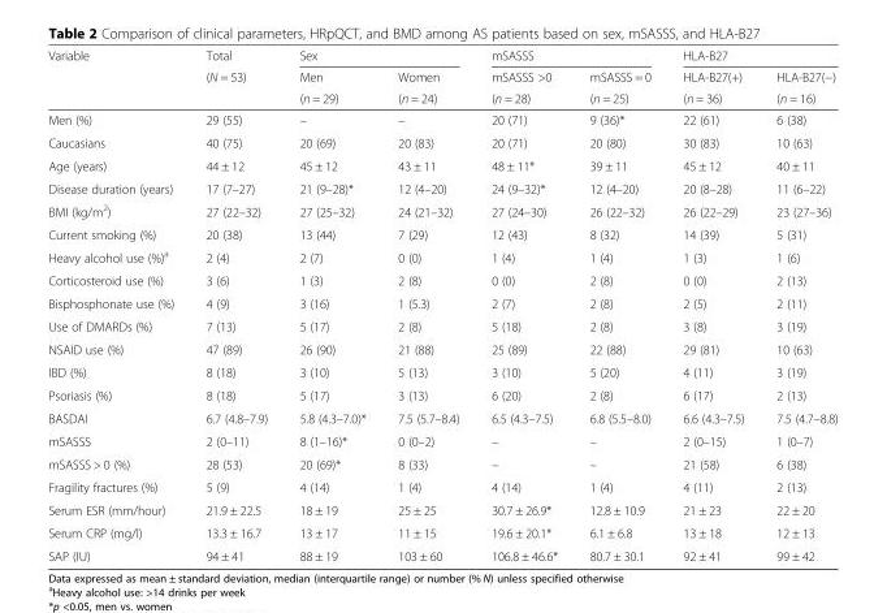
<table><thead><tr><td rowspan="3">Variable</td><td rowspan="3">Total (N = 53)</td><td colspan="2">Sex</td><td colspan="2">mSASSS</td><td colspan="2">HLA-B27</td></tr><tr><td rowspan="2">Men (n = 29)</td><td rowspan="2">Women (n = 24)</td><td rowspan="2">mSASSS &gt;0 (n = 28)</td><td rowspan="2">mSASSS = 0 (n = 25)</td><td rowspan="2">HLA-B27(+) (n = 36)</td><td rowspan="2">HLA-B27(−) (n = 16)</td></tr><tr></tr></thead><tbody><tr><td>Men (%)</td><td>29 (55)</td><td>–</td><td>–</td><td>20 (71)</td><td>9 (36)*</td><td>22 (61)</td><td>6 (38)</td></tr><tr><td>Caucasians</td><td>40 (75)</td><td>20 (69)</td><td>20 (83)</td><td>20 (71)</td><td>20 (80)</td><td>30 (83)</td><td>10 (63)</td></tr><tr><td>Age (years)</td><td>44 ± 12</td><td>45 ± 12</td><td>43 ± 11</td><td>48 ± 11*</td><td>39 ± 11</td><td>45 ± 12</td><td>40 ± 11</td></tr><tr><td>Disease duration (years)</td><td>17 (7–27)</td><td>21 (9–28)*</td><td>12 (4–20)</td><td>24 (9–32)*</td><td>12 (4–20)</td><td>20 (8–28)</td><td>11 (6–22)</td></tr><tr><td>BMI (kg/m<sup>2</sup>)</td><td>27 (22–32)</td><td>27 (25–32)</td><td>24 (21–32)</td><td>27 (24–30)</td><td>26 (22–32)</td><td>26 (22–29)</td><td>23 (27–36)</td></tr><tr><td>Current smoking (%)</td><td>20 (38)</td><td>13 (44)</td><td>7 (29)</td><td>12 (43)</td><td>8 (32)</td><td>14 (39)</td><td>5 (31)</td></tr><tr><td>Heavy alcohol use (%)<sup>a</sup></td><td>2 (4)</td><td>2 (7)</td><td>0 (0)</td><td>1 (4)</td><td>1 (4)</td><td>1 (3)</td><td>1 (6)</td></tr><tr><td>Corticosteroid use (%)</td><td>3 (6)</td><td>1 (3)</td><td>2 (8)</td><td>0 (0)</td><td>2 (8)</td><td>0 (0)</td><td>2 (13)</td></tr><tr><td>Bisphosphonate use (%)</td><td>4 (9)</td><td>3 (16)</td><td>1 (5.3)</td><td>2 (7)</td><td>2 (8)</td><td>2 (5)</td><td>2 (11)</td></tr><tr><td>Use of DMARDs (%)</td><td>7 (13)</td><td>5 (17)</td><td>2 (8)</td><td>5 (18)</td><td>2 (8)</td><td>3 (8)</td><td>3 (19)</td></tr><tr><td>NSAID use (%)</td><td>47 (89)</td><td>26 (90)</td><td>21 (88)</td><td>25 (89)</td><td>22 (88)</td><td>29 (81)</td><td>10 (63)</td></tr><tr><td>IBD (%)</td><td>8 (18)</td><td>3 (10)</td><td>5 (13)</td><td>3 (10)</td><td>5 (20)</td><td>4 (11)</td><td>3 (19)</td></tr><tr><td>Psoriasis (%)</td><td>8 (18)</td><td>5 (17)</td><td>3 (13)</td><td>6 (20)</td><td>2 (8)</td><td>6 (17)</td><td>2 (13)</td></tr><tr><td>BASDAI</td><td>6.7 (4.8–7.9)</td><td>5.8 (4.3–7.0)*</td><td>7.5 (5.7–8.4)</td><td>6.5 (4.3–7.5)</td><td>6.8 (5.5–8.0)</td><td>6.6 (4.3–7.5)</td><td>7.5 (4.7–8.8)</td></tr><tr><td>mSASSS</td><td>2 (0–11)</td><td>8 (1–16)*</td><td>0 (0–2)</td><td>–</td><td>–</td><td>2 (0–15)</td><td>1 (0–7)</td></tr><tr><td>mSASSS &gt; 0 (%)</td><td>28 (53)</td><td>20 (69)*</td><td>8 (33)</td><td>–</td><td>–</td><td>21 (58)</td><td>6 (38)</td></tr><tr><td>Fragility fractures (%)</td><td>5 (9)</td><td>4 (14)</td><td>1 (4)</td><td>4 (14)</td><td>1 (4)</td><td>4 (11)</td><td>2 (13)</td></tr><tr><td>Serum ESR (mm/hour)</td><td>21.9 ± 22.5</td><td>18 ± 19</td><td>25 ± 25</td><td>30.7 ± 26.9*</td><td>12.8 ± 10.9</td><td>21 ± 23</td><td>22 ± 20</td></tr><tr><td>Serum CRP (mg/l)</td><td>13.3 ± 16.7</td><td>13 ± 17</td><td>11 ± 15</td><td>19.6 ± 20.1*</td><td>6.1 ± 6.8</td><td>13 ± 18</td><td>12 ± 13</td></tr><tr><td>SAP (IU)</td><td>94 ± 41</td><td>88 ± 19</td><td>103 ± 60</td><td>106.8 ± 46.6*</td><td>80.7 ± 30.1</td><td>92 ± 41</td><td>99 ± 42</td></tr></tbody></table>